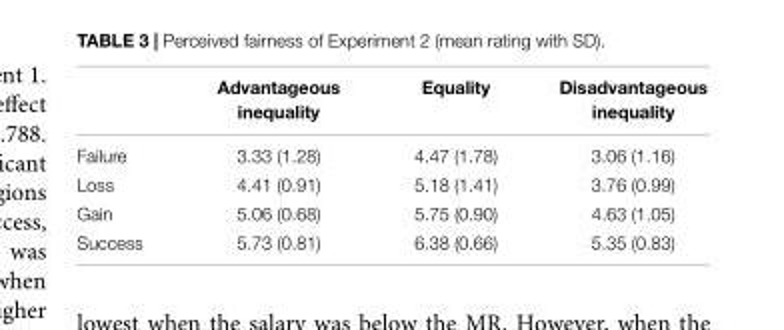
<table><thead><tr><td></td><td>Advantageous inequality</td><td>Equality</td><td>Disadvantageous inequality</td></tr></thead><tbody><tr><td>Failure</td><td>3.33 (1.28)</td><td>4.47 (1.78)</td><td>3.06 (1.16)</td></tr><tr><td>Loss</td><td>4.41 (0.91)</td><td>5.18 (1.41)</td><td>3.76 (0.99)</td></tr><tr><td>Gain</td><td>5.06 (0.68)</td><td>5.75 (0.90)</td><td>4.63 (1.05)</td></tr><tr><td>Success</td><td>5.73 (0.81)</td><td>6.38 (0.66)</td><td>5.35 (0.83)</td></tr></tbody></table>